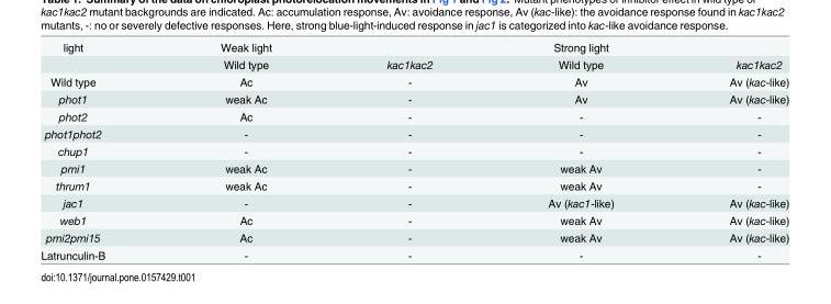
<table><tbody><tr><td rowspan="2">light</td><td>Weak light</td><td></td><td>Strong light</td><td></td></tr><tr><td>Wild type</td><td>kac1kac2</td><td>Wild type</td><td>kac1kac2</td></tr><tr><td>Wild type</td><td>Ac</td><td>-</td><td>Av</td><td>Av (kac-like)</td></tr><tr><td>phot1</td><td>weak Ac</td><td>-</td><td>Av</td><td>Av (kac-like)</td></tr><tr><td>phot2</td><td>Ac</td><td>-</td><td>-</td><td>-</td></tr><tr><td>phot1phot2</td><td>-</td><td>-</td><td>-</td><td>-</td></tr><tr><td>chup1</td><td>-</td><td>-</td><td>-</td><td>-</td></tr><tr><td>pmi1</td><td>weak Ac</td><td>-</td><td>weak Av</td><td>-</td></tr><tr><td>thrum1</td><td>weak Ac</td><td>-</td><td>weak Av</td><td>-</td></tr><tr><td>jac1</td><td>-</td><td>-</td><td>Av (kac1-like)</td><td>Av (kac-like)</td></tr><tr><td>web1</td><td>Ac</td><td>-</td><td>weak Av</td><td>Av (kac-like)</td></tr><tr><td>pmi2pmi15</td><td>Ac</td><td>-</td><td>weak Av</td><td>Av (kac-like)</td></tr><tr><td>Latrunculin-B</td><td>-</td><td>-</td><td>-</td><td>-</td></tr></tbody></table>